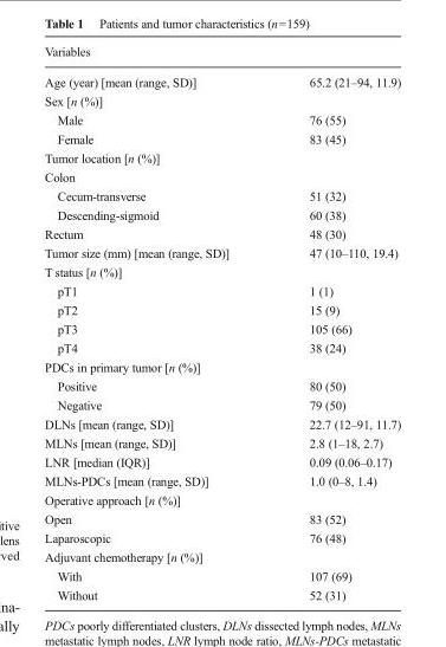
<table><thead><tr><td>Variables</td><td></td></tr></thead><tbody><tr><td>Age (year) [mean (range, SD)]</td><td>65.2 (21–94, 11.9)</td></tr><tr><td colspan="2">Sex [n (%)]</td></tr><tr><td>Male</td><td>76 (55)</td></tr><tr><td>Female</td><td>83 (45)</td></tr><tr><td colspan="2">Tumor location [n (%)]</td></tr><tr><td colspan="2">Colon</td></tr><tr><td>Cecum-transverse</td><td>51 (32)</td></tr><tr><td>Descending-sigmoid</td><td>60 (38)</td></tr><tr><td>Rectum</td><td>48 (30)</td></tr><tr><td>Tumor size (mm) [mean (range, SD)]</td><td>47 (10–110, 19.4)</td></tr><tr><td colspan="2">T status [n (%)]</td></tr><tr><td>pT1</td><td>1 (1)</td></tr><tr><td>pT2</td><td>15 (9)</td></tr><tr><td>pT3</td><td>105 (66)</td></tr><tr><td>pT4</td><td>38 (24)</td></tr><tr><td colspan="2">PDCs in primary tumor [n (%)]</td></tr><tr><td>Positive</td><td>80 (50)</td></tr><tr><td>Negative</td><td>79 (50)</td></tr><tr><td>DLNs [mean (range, SD)]</td><td>22.7 (12–91, 11.7)</td></tr><tr><td>MLNs [mean (range, SD)]</td><td>2.8 (1–18, 2.7)</td></tr><tr><td>LNR [median (IQR)]</td><td>0.09 (0.06–0.17)</td></tr><tr><td>MLNs-PDCs [mean (range, SD)]</td><td>1.0 (0–8, 1.4)</td></tr><tr><td colspan="2">Operative approach [n (%)]</td></tr><tr><td>Open</td><td>83 (52)</td></tr><tr><td>Laparoscopic</td><td>76 (48)</td></tr><tr><td colspan="2">Adjuvant chemotherapy [n (%)]</td></tr><tr><td>With</td><td>107 (69)</td></tr><tr><td>Without</td><td>52 (31)</td></tr></tbody></table>